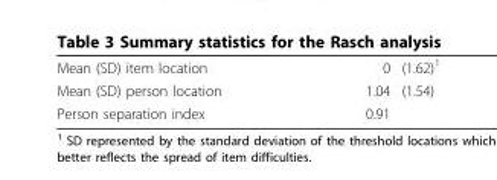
<table><tbody><tr><td>Mean (SD) item location</td><td>0</td><td>(1.62)<sup>1</sup></td></tr><tr><td>Mean (SD) person location</td><td>1.04</td><td>(1.54)</td></tr><tr><td>Person separation index</td><td>0.91</td><td></td></tr></tbody></table>